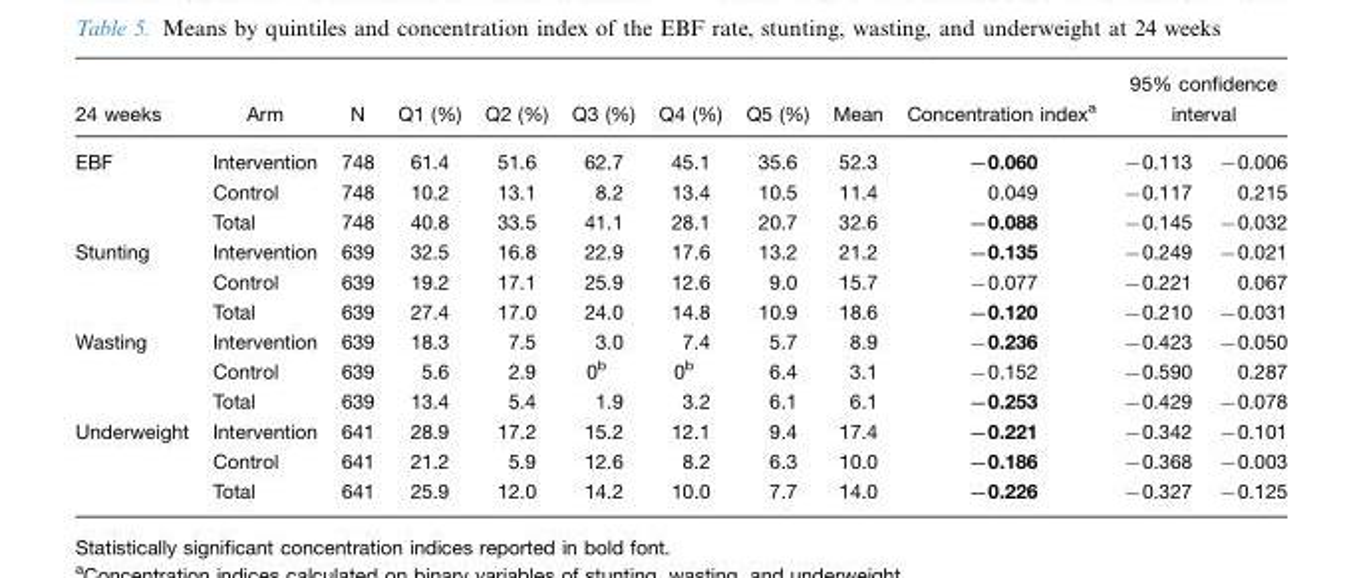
<table><thead><tr><td rowspan="2">24 weeks EBF</td><td rowspan="2">Arm Intervention</td><td rowspan="2">N 748</td><td rowspan="2">Q1 (%) 61.4</td><td rowspan="2">Q2 (%) 51.6</td><td rowspan="2">Q3 (%) 62.7</td><td rowspan="2">Q4 (%) 45.1</td><td rowspan="2">Q5 (%) 35.6</td><td rowspan="2">Mean 52.3</td><td rowspan="2">Concentration index<sup>a</sup> −0.060</td><td colspan="2">95% confidence interval</td></tr><tr><td>−0.113</td><td>−0.006</td></tr></thead><tbody><tr><td></td><td>Control</td><td>748</td><td>10.2</td><td>13.1</td><td>8.2</td><td>13.4</td><td>10.5</td><td>11.4</td><td>0.049</td><td>−0.117</td><td>0.215</td></tr><tr><td></td><td>Total</td><td>748</td><td>40.8</td><td>33.5</td><td>41.1</td><td>28.1</td><td>20.7</td><td>32.6</td><td>−0.088</td><td>−0.145</td><td>−0.032</td></tr><tr><td rowspan="3">Stunting</td><td>Intervention</td><td>639</td><td>32.5</td><td>16.8</td><td>22.9</td><td>17.6</td><td>13.2</td><td>21.2</td><td>−0.135</td><td>−0.249</td><td>−0.021</td></tr><tr><td>Control</td><td>639</td><td>19.2</td><td>17.1</td><td>25.9</td><td>12.6</td><td>9.0</td><td>15.7</td><td>−0.077</td><td>−0.221</td><td>0.067</td></tr><tr><td>Total</td><td>639</td><td>27.4</td><td>17.0</td><td>24.0</td><td>14.8</td><td>10.9</td><td>18.6</td><td>−0.120</td><td>−0.210</td><td>−0.031</td></tr><tr><td rowspan="3">Wasting</td><td>Intervention</td><td>639</td><td>18.3</td><td>7.5</td><td>3.0</td><td>7.4</td><td>5.7</td><td>8.9</td><td>−0.236</td><td>−0.423</td><td>−0.050</td></tr><tr><td>Control</td><td>639</td><td>5.6</td><td>2.9</td><td>0<sup>b</sup></td><td>0<sup>b</sup></td><td>6.4</td><td>3.1</td><td>−0.152</td><td>−0.590</td><td>0.287</td></tr><tr><td>Total</td><td>639</td><td>13.4</td><td>5.4</td><td>1.9</td><td>3.2</td><td>6.1</td><td>6.1</td><td>−0.253</td><td>−0.429</td><td>−0.078</td></tr><tr><td rowspan="3">Underweight</td><td>Intervention</td><td>641</td><td>28.9</td><td>17.2</td><td>15.2</td><td>12.1</td><td>9.4</td><td>17.4</td><td>−0.221</td><td>−0.342</td><td>−0.101</td></tr><tr><td>Control</td><td>641</td><td>21.2</td><td>5.9</td><td>12.6</td><td>8.2</td><td>6.3</td><td>10.0</td><td>−0.186</td><td>−0.368</td><td>−0.003</td></tr><tr><td>Total</td><td>641</td><td>25.9</td><td>12.0</td><td>14.2</td><td>10.0</td><td>7.7</td><td>14.0</td><td>−0.226</td><td>−0.327</td><td>−0.125</td></tr></tbody></table>